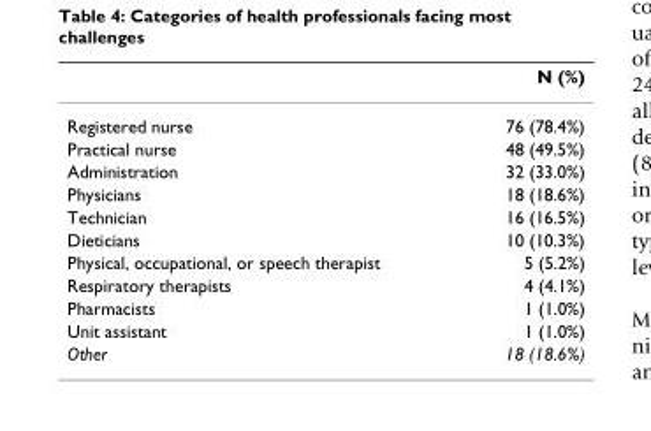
<table><thead><tr><td></td><td>N (%)</td></tr></thead><tbody><tr><td>Registered nurse</td><td>76 (78.4%)</td></tr><tr><td>Practical nurse</td><td>48 (49.5%)</td></tr><tr><td>Administration</td><td>32 (33.0%)</td></tr><tr><td>Physicians</td><td>18 (18.6%)</td></tr><tr><td>Technician</td><td>16 (16.5%)</td></tr><tr><td>Dieticians</td><td>10 (10.3%)</td></tr><tr><td>Physical, occupational, or speech therapist</td><td>5 (5.2%)</td></tr><tr><td>Respiratory therapists</td><td>4 (4.1%)</td></tr><tr><td>Pharmacists</td><td>1 (1.0%)</td></tr><tr><td>Unit assistant</td><td>1 (1.0%)</td></tr><tr><td>Other</td><td>18 (18.6%)</td></tr></tbody></table>